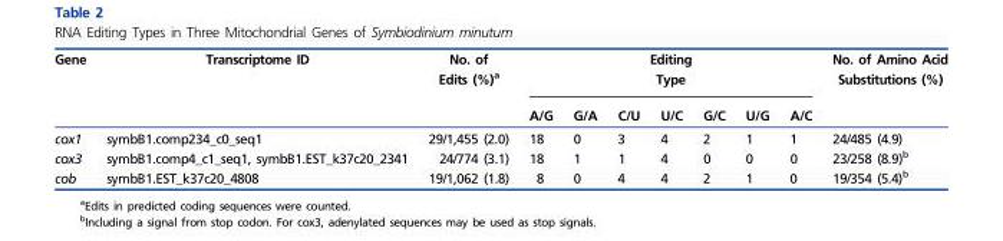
<table><thead><tr><td rowspan="2">Gene</td><td rowspan="2">Transcriptome ID</td><td rowspan="2">No. of Edits (%)<sup>a</sup></td><td colspan="7">Editing Type</td><td rowspan="2">No. of Amino Acid Substitutions (%)</td></tr><tr><td>A/G</td><td>G/A</td><td>C/U</td><td>U/C</td><td>G/C</td><td>U/G</td><td>A/C</td></tr></thead><tbody><tr><td>cox1</td><td>symbB1.comp234_c0_seq1</td><td>29/1,455 (2.0)</td><td>18</td><td>0</td><td>3</td><td>4</td><td>2</td><td>1</td><td>1</td><td>24/485 (4.9)</td></tr><tr><td>cox3</td><td>symbB1.comp4_c1_seq1, symbB1.EST_k37c20_2341</td><td>24/774 (3.1)</td><td>18</td><td>1</td><td>1</td><td>4</td><td>0</td><td>0</td><td>0</td><td>23/258 (8.9)<sup>b</sup></td></tr><tr><td>cob</td><td>symbB1.EST_k37c20_4808</td><td>19/1,062 (1.8)</td><td>8</td><td>0</td><td>4</td><td>4</td><td>2</td><td>1</td><td>0</td><td>19/354 (5.4)<sup>b</sup></td></tr></tbody></table>